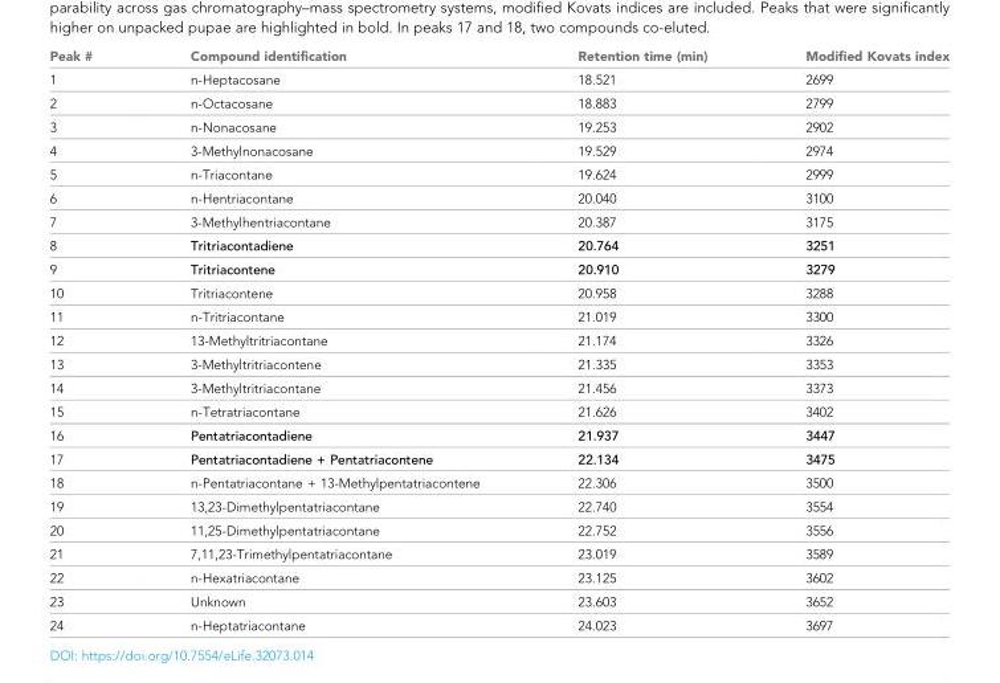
<table><thead><tr><td>Peak #</td><td>Compound identification</td><td>Retention time (min)</td><td>Modified Kovats index</td></tr></thead><tbody><tr><td>1</td><td>n-Heptacosane</td><td>18.521</td><td>2699</td></tr><tr><td>2</td><td>n-Octacosane</td><td>18.883</td><td>2799</td></tr><tr><td>3</td><td>n-Nonacosane</td><td>19.253</td><td>2902</td></tr><tr><td>4</td><td>3-Methylnonacosane</td><td>19.529</td><td>2974</td></tr><tr><td>5</td><td>n-Triacontane</td><td>19.624</td><td>2999</td></tr><tr><td>6</td><td>n-Hentriacontane</td><td>20.040</td><td>3100</td></tr><tr><td>7</td><td>3-Methylhentriacontane</td><td>20.387</td><td>3175</td></tr><tr><td>8</td><td>Tritriacontadiene</td><td>20.764</td><td>3251</td></tr><tr><td>9</td><td>Tritriacontene</td><td>20.910</td><td>3279</td></tr><tr><td>10</td><td>Tritriacontene</td><td>20.958</td><td>3288</td></tr><tr><td>11</td><td>n-Tritriacontane</td><td>21.019</td><td>3300</td></tr><tr><td>12</td><td>13-Methyltritriacontane</td><td>21.174</td><td>3326</td></tr><tr><td>13</td><td>3-Methyltritriacontene</td><td>21.335</td><td>3353</td></tr><tr><td>14</td><td>3-Methyltritriacontane</td><td>21.456</td><td>3373</td></tr><tr><td>15</td><td>n-Tetratriacontane</td><td>21.626</td><td>3402</td></tr><tr><td>16</td><td>Pentatriacontadiene</td><td>21.937</td><td>3447</td></tr><tr><td>17</td><td>Pentatriacontadiene + Pentatriacontene</td><td>22.134</td><td>3475</td></tr><tr><td>18</td><td>n-Pentatriacontane + 13-Methylpentatriacontene</td><td>22.306</td><td>3500</td></tr><tr><td>19</td><td>13,23-Dimethylpentatriacontane</td><td>22.740</td><td>3554</td></tr><tr><td>20</td><td>11,25-Dimethylpentatriacontane</td><td>22.752</td><td>3556</td></tr><tr><td>21</td><td>7,11,23-Trimethylpentatriacontane</td><td>23.019</td><td>3589</td></tr><tr><td>22</td><td>n-Hexatriacontane</td><td>23.125</td><td>3602</td></tr><tr><td>23</td><td>Unknown</td><td>23.603</td><td>3652</td></tr><tr><td>24</td><td>n-Heptatriacontane</td><td>24.023</td><td>3697</td></tr></tbody></table>